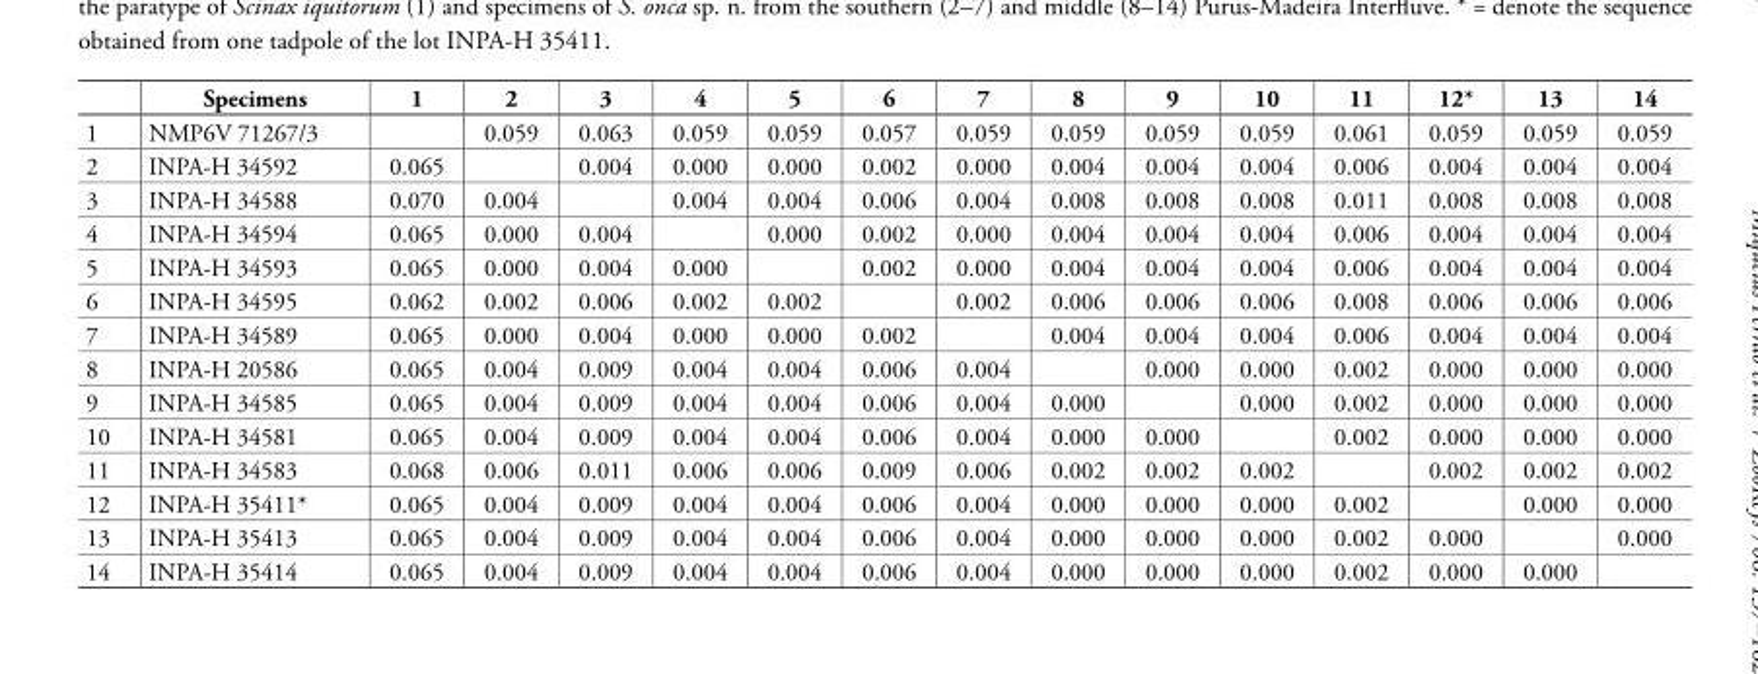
<table><thead><tr><td></td><td>Specimens</td><td>1</td><td>2</td><td>3</td><td>4</td><td>5</td><td>6</td><td>7</td><td>8</td><td>9</td><td>10</td><td>11</td><td>12*</td><td>13</td><td>14</td></tr></thead><tbody><tr><td>1</td><td>NMP6V 71267/3</td><td></td><td>0.059</td><td>0.063</td><td>0.059</td><td>0.059</td><td>0.057</td><td>0.059</td><td>0.059</td><td>0.059</td><td>0.059</td><td>0.061</td><td>0.059</td><td>0.059</td><td>0.059</td></tr><tr><td>2</td><td>INPA-H 34592</td><td>0.065</td><td></td><td>0.004</td><td>0.000</td><td>0.000</td><td>0.002</td><td>0.000</td><td>0.004</td><td>0.004</td><td>0.004</td><td>0.006</td><td>0.004</td><td>0.004</td><td>0.004</td></tr><tr><td>3</td><td>INPA-H 34588</td><td>0.070</td><td>0.004</td><td></td><td>0.004</td><td>0.004</td><td>0.006</td><td>0.004</td><td>0.008</td><td>0.008</td><td>0.008</td><td>0.011</td><td>0.008</td><td>0.008</td><td>0.008</td></tr><tr><td>4</td><td>INPA-H 34594</td><td>0.065</td><td>0.000</td><td>0.004</td><td></td><td>0.000</td><td>0.002</td><td>0.000</td><td>0.004</td><td>0.004</td><td>0.004</td><td>0.006</td><td>0.004</td><td>0.004</td><td>0.004</td></tr><tr><td>5</td><td>INPA-H 34593</td><td>0.065</td><td>0.000</td><td>0.004</td><td>0.000</td><td></td><td>0.002</td><td>0.000</td><td>0.004</td><td>0.004</td><td>0.004</td><td>0.006</td><td>0.004</td><td>0.004</td><td>0.004</td></tr><tr><td>6</td><td>INPA-H 34595</td><td>0.062</td><td>0.002</td><td>0.006</td><td>0.002</td><td>0.002</td><td></td><td>0.002</td><td>0.006</td><td>0.006</td><td>0.006</td><td>0.008</td><td>0.006</td><td>0.006</td><td>0.006</td></tr><tr><td>7</td><td>INPA-H 34589</td><td>0.065</td><td>0.000</td><td>0.004</td><td>0.000</td><td>0.000</td><td>0.002</td><td></td><td>0.004</td><td>0.004</td><td>0.004</td><td>0.006</td><td>0.004</td><td>0.004</td><td>0.004</td></tr><tr><td>8</td><td>INPA-H 20586</td><td>0.065</td><td>0.004</td><td>0.009</td><td>0.004</td><td>0.004</td><td>0.006</td><td>0.004</td><td></td><td>0.000</td><td>0.000</td><td>0.002</td><td>0.000</td><td>0.000</td><td>0.000</td></tr><tr><td>9</td><td>INPA-H 34585</td><td>0.065</td><td>0.004</td><td>0.009</td><td>0.004</td><td>0.004</td><td>0.006</td><td>0.004</td><td>0.000</td><td></td><td>0.000</td><td>0.002</td><td>0.000</td><td>0.000</td><td>0.000</td></tr><tr><td>10</td><td>INPA-H 34581</td><td>0.065</td><td>0.004</td><td>0.009</td><td>0.004</td><td>0.004</td><td>0.006</td><td>0.004</td><td>0.000</td><td>0.000</td><td></td><td>0.002</td><td>0.000</td><td>0.000</td><td>0.000</td></tr><tr><td>11</td><td>INPA-H 34583</td><td>0.068</td><td>0.006</td><td>0.011</td><td>0.006</td><td>0.006</td><td>0.009</td><td>0.006</td><td>0.002</td><td>0.002</td><td>0.002</td><td></td><td>0.002</td><td>0.002</td><td>0.002</td></tr><tr><td>12</td><td>INPA-H 35411*</td><td>0.065</td><td>0.004</td><td>0.009</td><td>0.004</td><td>0.004</td><td>0.006</td><td>0.004</td><td>0.000</td><td>0.000</td><td>0.000</td><td>0.002</td><td></td><td>0.000</td><td>0.000</td></tr><tr><td>13</td><td>INPA-H 35413</td><td>0.065</td><td>0.004</td><td>0.009</td><td>0.004</td><td>0.004</td><td>0.006</td><td>0.004</td><td>0.000</td><td>0.000</td><td>0.000</td><td>0.002</td><td>0.000</td><td></td><td>0.000</td></tr><tr><td>14</td><td>INPA-H 35414</td><td>0.065</td><td>0.004</td><td>0.009</td><td>0.004</td><td>0.004</td><td>0.006</td><td>0.004</td><td>0.000</td><td>0.000</td><td>0.000</td><td>0.002</td><td>0.000</td><td>0.000</td><td></td></tr></tbody></table>